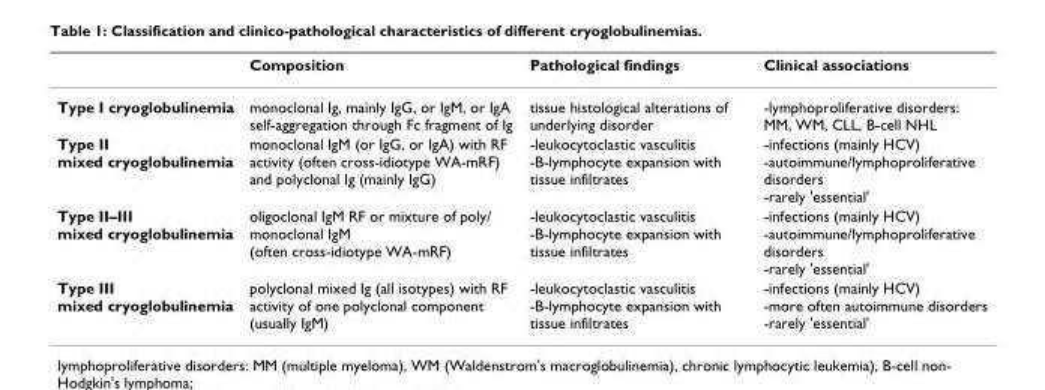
<table><thead><tr><td></td><td>Composition</td><td>Pathological findings</td><td>Clinical associations</td></tr></thead><tbody><tr><td>Type I cryoglobulinemia</td><td>monoclonal Ig, mainly IgG, or IgM, or IgA self-aggregation through Fc fragment of Ig</td><td>tissue histological alterations of underlying disorder</td><td>-lymphoproliferative disorders: MM, WM, CLL, B-cell NHL</td></tr><tr><td>Type II mixed cryoglobulinemia</td><td>monoclonal IgM (or IgG, or IgA) with RF activity (often cross-idiotype WA-mRF) and polyclonal Ig (mainly IgG)</td><td>-leukocytoclastic vasculitis -B-lymphocyte expansion with tissue infiltrates</td><td>-infections (mainly HCV) -autoimmune/lymphoproliferative disorders -rarely &#x27;essential&#x27;</td></tr><tr><td>Type II–III mixed cryoglobulinemia</td><td>oligoclonal IgM RF or mixture of poly/ monoclonal IgM (often cross-idiotype WA-mRF)</td><td>-leukocytoclastic vasculitis -B-lymphocyte expansion with tissue infiltrates</td><td>-infections (mainly HCV) -autoimmune/lymphoproliferative disorders -rarely &#x27;essential&#x27;</td></tr><tr><td>Type III mixed cryoglobulinemia</td><td>polyclonal mixed Ig (all isotypes) with RF activity of one polyclonal component (usually IgM)</td><td>-leukocytoclastic vasculitis -B-lymphocyte expansion with tissue infiltrates</td><td>-infections (mainly HCV) -more often autoimmune disorders -rarely &#x27;essential&#x27;</td></tr></tbody></table>